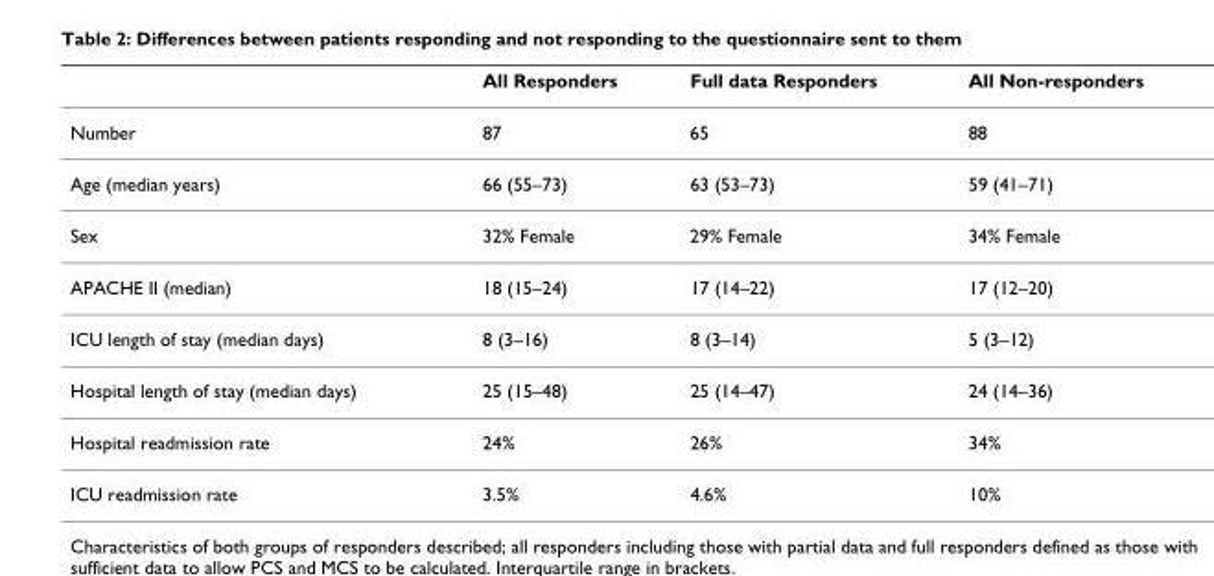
<table><thead><tr><td></td><td>All Responders</td><td>Full data Responders</td><td>All Non-responders</td></tr></thead><tbody><tr><td>Number</td><td>87</td><td>65</td><td>88</td></tr><tr><td>Age (median years)</td><td>66 (55–73)</td><td>63 (53–73)</td><td>59 (41–71)</td></tr><tr><td>Sex</td><td>32% Female</td><td>29% Female</td><td>34% Female</td></tr><tr><td>APACHE II (median)</td><td>18 (15–24)</td><td>17 (14–22)</td><td>17 (12–20)</td></tr><tr><td>ICU length of stay (median days)</td><td>8 (3–16)</td><td>8 (3–14)</td><td>5 (3–12)</td></tr><tr><td>Hospital length of stay (median days)</td><td>25 (15–48)</td><td>25 (14–47)</td><td>24 (14–36)</td></tr><tr><td>Hospital readmission rate</td><td>24%</td><td>26%</td><td>34%</td></tr><tr><td>ICU readmission rate</td><td>3.5%</td><td>4.6%</td><td>10%</td></tr></tbody></table>